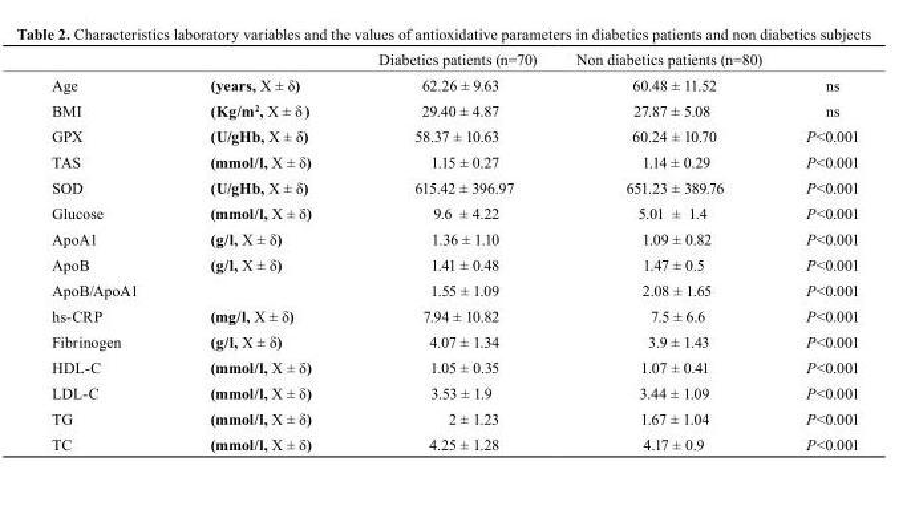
<table><thead><tr><td></td><td></td><td>Diabetics patients (n=70)</td><td>Non diabetics patients (n=80)</td><td></td></tr></thead><tbody><tr><td>Age</td><td>(years, X ± δ)</td><td>62.26 ± 9.63</td><td>60.48 ± 11.52</td><td>ns</td></tr><tr><td>BMI</td><td>(Kg/m<sup>2</sup>, X ± δ )</td><td>29.40 ± 4.87</td><td>27.87 ± 5.08</td><td>ns</td></tr><tr><td>GPX</td><td>(u/gHb, X ± δ)</td><td>58.37 ± 10.63</td><td>60.24 ± 10.70</td><td>P&lt;0.001</td></tr><tr><td>TAS</td><td>(mmol/l, X ± δ)</td><td>1.15 ± 0.27</td><td>1.14 ± 0.29</td><td>P&lt;0.001</td></tr><tr><td>SOD</td><td>(u/gHb, X ± δ)</td><td>615.42 ± 396.97</td><td>651.23 ± 389.76</td><td>P&lt;0.001</td></tr><tr><td>Glucose</td><td>(mmol/l, X ± δ)</td><td>9.6 ± 4.22</td><td>5.01 ± 1.4</td><td>P&lt;0.001</td></tr><tr><td>ApoA1</td><td>(g/l, X ± δ)</td><td>1.36 ± 1.10</td><td>1.09 ± 0.82</td><td>P&lt;0.001</td></tr><tr><td>ApoB</td><td>(g/l, X ± δ)</td><td>1.41 ± 0.48</td><td>1.47 ± 0.5</td><td>P&lt;0.001</td></tr><tr><td>ApoB/ApoA1</td><td></td><td>1.55 ± 1.09</td><td>2.08 ± 1.65</td><td>P&lt;0.001</td></tr><tr><td>hs-CRP</td><td>(mg/l, X ± δ)</td><td>7.94 ± 10.82</td><td>7.5 ± 6.6</td><td>P&lt;0.001</td></tr><tr><td>Fibrinogen</td><td>(g/l, X ± δ)</td><td>4.07 ± 1.34</td><td>3.9 ± 1.43</td><td>P&lt;0.001</td></tr><tr><td>HDL-C</td><td>(mmol/l, X ± δ)</td><td>1.05 ± 0.35</td><td>1.07 ± 0.41</td><td>P&lt;0.001</td></tr><tr><td>LDL-C</td><td>(mmol/l, X ± δ)</td><td>3.53 ± 1.9</td><td>3.44 ± 1.09</td><td>P&lt;0.001</td></tr><tr><td>TG</td><td>(mmol/l, X ± δ)</td><td>2 ± 1.23</td><td>1.67 ± 1.04</td><td>P&lt;0.001</td></tr><tr><td>TC</td><td>(mmol/l, X ± δ)</td><td>4.25 ± 1.28</td><td>4.17 ± 0.9</td><td>P&lt;0.001</td></tr></tbody></table>